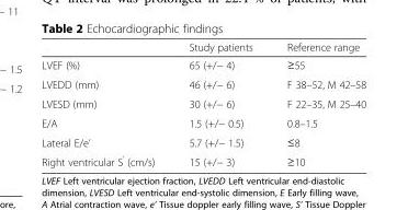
<table><thead><tr><td></td><td>Study patients</td><td>Reference range</td></tr></thead><tbody><tr><td>LVEF (%)</td><td>65 (+/− 4)</td><td>≥55</td></tr><tr><td>LVEDD (mm)</td><td>46 (+/− 6)</td><td>F 38–52, M 42–58</td></tr><tr><td>LVESD (mm)</td><td>30 (+/− 6)</td><td>F 22–35, M 25–40</td></tr><tr><td>E/A</td><td>1.5 (+/− 0.5)</td><td>0.8–1.5</td></tr><tr><td>Lateral E/e’</td><td>5.7 (+/− 1.5)</td><td>≤8</td></tr><tr><td>Right ventricular S<sup>’</sup> (cm/s)</td><td>15 (+/− 3)</td><td>≥10</td></tr></tbody></table>